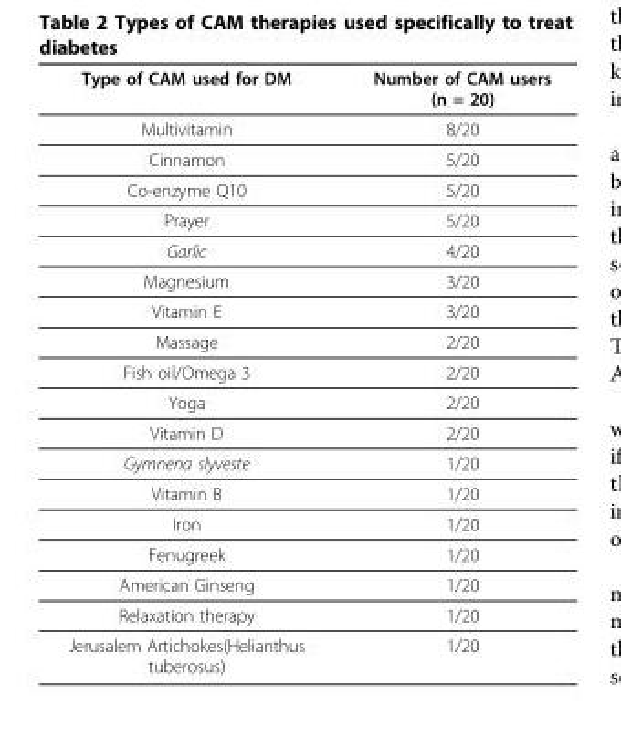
<table><thead><tr><td>Type of CAM used for DM</td><td>Number of CAM users (n = 20)</td></tr></thead><tbody><tr><td>Multivitamin</td><td>8/20</td></tr><tr><td>Cinnamon</td><td>5/20</td></tr><tr><td>Co-enzyme Q10</td><td>5/20</td></tr><tr><td>Prayer</td><td>5/20</td></tr><tr><td>Garlic</td><td>4/20</td></tr><tr><td>Magnesium</td><td>3/20</td></tr><tr><td>Vitamin E</td><td>3/20</td></tr><tr><td>Massage</td><td>2/20</td></tr><tr><td>Fish oil/Omega 3</td><td>2/20</td></tr><tr><td>Yoga</td><td>2/20</td></tr><tr><td>Vitamin D</td><td>2/20</td></tr><tr><td>Gymnena slyveste</td><td>1/20</td></tr><tr><td>Vitamin B</td><td>1/20</td></tr><tr><td>Iron</td><td>1/20</td></tr><tr><td>Fenugreek</td><td>1/20</td></tr><tr><td>American Ginseng</td><td>1/20</td></tr><tr><td>Relaxation therapy</td><td>1/20</td></tr><tr><td>Jerusalem Artichokes(Helianthus tuberosus)</td><td>1/20</td></tr></tbody></table>